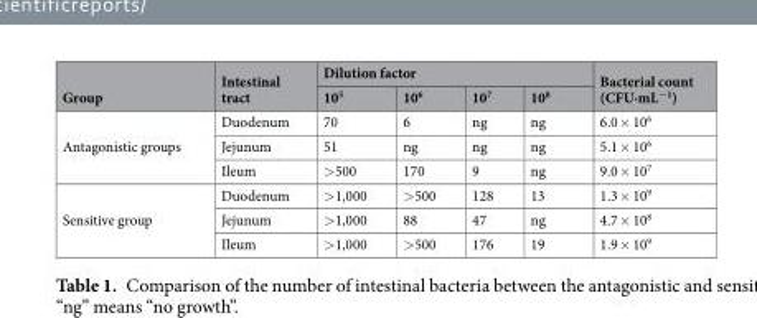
<table><thead><tr><td rowspan="2">Group</td><td rowspan="2">Intestinal tract</td><td colspan="4">Dilution factor</td><td rowspan="2">Bacterial count (CFU·mL<sup>−1</sup>)</td></tr><tr><td>10<sup>5</sup></td><td>10<sup>6</sup></td><td>10<sup>7</sup></td><td>10<sup>8</sup></td></tr></thead><tbody><tr><td rowspan="3">Antagonistic groups</td><td>Duodenum</td><td>70</td><td>6</td><td>ng</td><td>ng</td><td>6.0 × 10<sup>6</sup></td></tr><tr><td>Jejunum</td><td>51</td><td>ng</td><td>ng</td><td>ng</td><td>5.1 × 10<sup>6</sup></td></tr><tr><td>Ileum</td><td>&gt;500</td><td>170</td><td>9</td><td>ng</td><td>9.0 × 10<sup>7</sup></td></tr><tr><td rowspan="3">Sensitive group</td><td>Duodenum</td><td>&gt;1,000</td><td>&gt;500</td><td>128</td><td>13</td><td>1.3 × 10<sup>9</sup></td></tr><tr><td>Jejunum</td><td>&gt;1,000</td><td>88</td><td>47</td><td>ng</td><td>4.7 × 10<sup>8</sup></td></tr><tr><td>Ileum</td><td>&gt;1,000</td><td>&gt;500</td><td>176</td><td>19</td><td>1.9 × 10<sup>9</sup></td></tr></tbody></table>